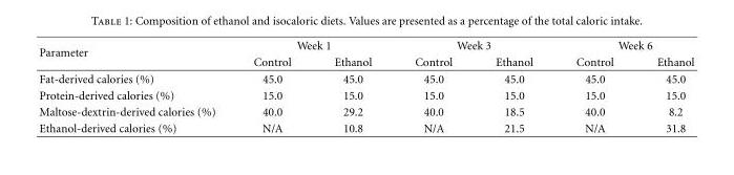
<table><thead><tr><td rowspan="2">Parameter</td><td colspan="2">Week 1</td><td colspan="2">Week 3</td><td colspan="2">Week 6</td></tr><tr><td>Control</td><td>Ethanol</td><td>Control</td><td>Ethanol</td><td>Control</td><td>Ethanol</td></tr></thead><tbody><tr><td>Fat-derived calories (%)</td><td>45.0</td><td>45.0</td><td>45.0</td><td>45.0</td><td>45.0</td><td>45.0</td></tr><tr><td>Protein-derived calories (%)</td><td>15.0</td><td>15.0</td><td>15.0</td><td>15.0</td><td>15.0</td><td>15.0</td></tr><tr><td>Maltose-dextrin-derived calories (%)</td><td>40.0</td><td>29.2</td><td>40.0</td><td>18.5</td><td>40.0</td><td>8.2</td></tr><tr><td>Ethanol-derived calories (%)</td><td>N/A</td><td>10.8</td><td>N/A</td><td>21.5</td><td>N/A</td><td>31.8</td></tr></tbody></table>